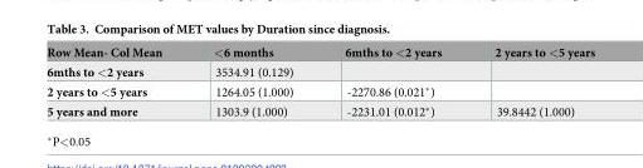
<table><thead><tr><td>Row Mean- Col Mean</td><td>&lt;6 months</td><td>6mths to &lt;2 years</td><td>2 years to &lt;5 years</td></tr></thead><tbody><tr><td>6mths to &lt;2 years</td><td>3534.91 (0.129)</td><td></td><td></td></tr><tr><td>2 years to &lt;5 years</td><td>1264.05 (1.000)</td><td>-2270.86 (0.021*)</td><td></td></tr><tr><td>5 years and more</td><td>1303.9 (1.000)</td><td>-2231.01 (0.012*)</td><td>39.8442 (1.000)</td></tr></tbody></table>